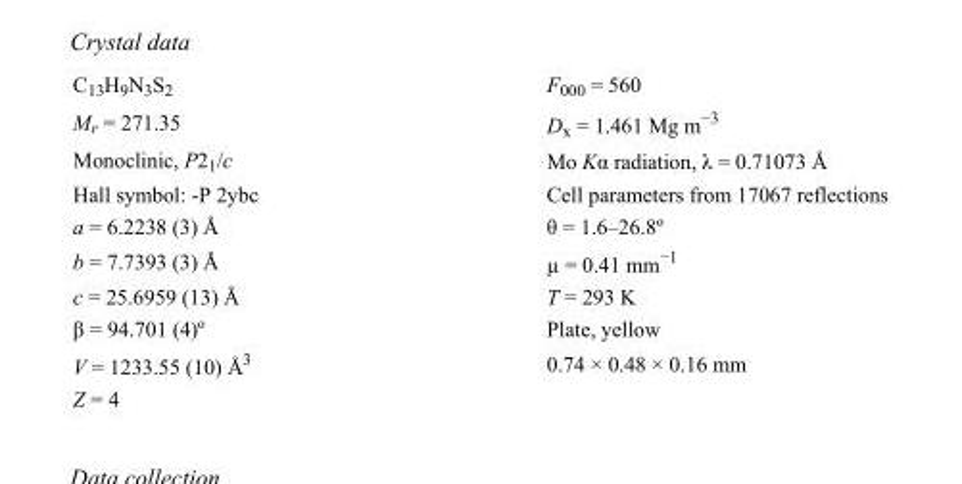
<table><tbody><tr><td>C<sub>13</sub>H<sub>9</sub>N<sub>3</sub>S<sub>2</sub></td><td>F000 = 560</td></tr><tr><td>M<sub>r</sub> = 271.35</td><td>D<sub>x</sub> = 1.461 Mg m<sup>−3</sup></td></tr><tr><td>Monoclinic, P2<sub>1</sub>/c</td><td>Mo Kα radiation, λ = 0.71073 Å</td></tr><tr><td>Hall symbol: -P 2ybc</td><td>Cell parameters from 17067 reflections</td></tr><tr><td>a = 6.2238 (3) Å</td><td>θ = 1.6–26.8º</td></tr><tr><td>b = 7.7393 (3) Å</td><td>µ = 0.41 mm<sup>−1</sup></td></tr><tr><td>c = 25.6959 (13) Å</td><td>T = 293 K</td></tr><tr><td>β = 94.701 (4)º</td><td>Plate, yellow</td></tr><tr><td>V = 1233.55 (10) Å<sup>3</sup></td><td>0.74 × 0.48 × 0.16 mm</td></tr><tr><td>Z = 4</td><td></td></tr></tbody></table>